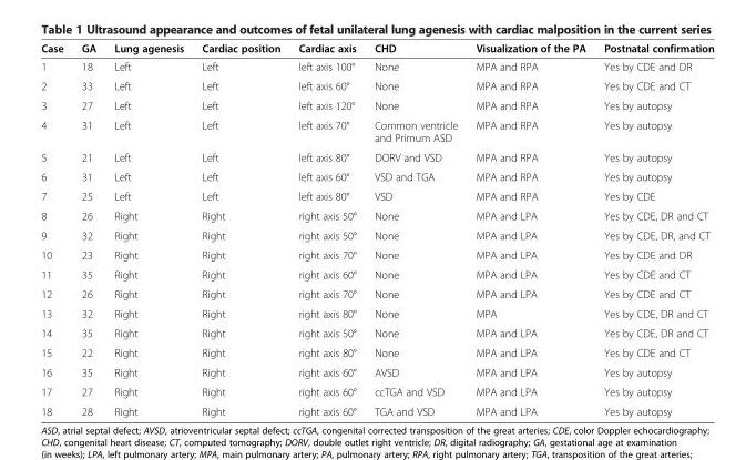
<table><thead><tr><td>Case</td><td>GA</td><td>Lung agenesis</td><td>Cardiac position</td><td>Cardiac axis</td><td>CHD</td><td>Visualization of the PA</td><td>Postnatal confirmation</td></tr></thead><tbody><tr><td>1</td><td>18</td><td>Left</td><td>Left</td><td>left axis 100°</td><td>None</td><td>MPA and RPA</td><td>Yes by CDE and DR</td></tr><tr><td>2</td><td>33</td><td>Left</td><td>Left</td><td>left axis 60°</td><td>None</td><td>MPA and RPA</td><td>Yes by CDE and CT</td></tr><tr><td>3</td><td>27</td><td>Left</td><td>Left</td><td>left axis 120°</td><td>None</td><td>MPA and RPA</td><td>Yes by autopsy</td></tr><tr><td>4</td><td>31</td><td>Left</td><td>Left</td><td>left axis 70°</td><td>Common ventricle and Primum ASD</td><td>MPA and RPA</td><td>Yes by autopsy</td></tr><tr><td>5</td><td>21</td><td>Left</td><td>Left</td><td>left axis 80°</td><td>DORV and VSD</td><td>MPA and RPA</td><td>Yes by autopsy</td></tr><tr><td>6</td><td>31</td><td>Left</td><td>Left</td><td>left axis 60°</td><td>VSD and TGA</td><td>MPA and RPA</td><td>Yes by autopsy</td></tr><tr><td>7</td><td>25</td><td>Left</td><td>Left</td><td>left axis 80°</td><td>VSD</td><td>MPA and RPA</td><td>Yes by CDE</td></tr><tr><td>8</td><td>26</td><td>Right</td><td>Right</td><td>right axis 50°</td><td>None</td><td>MPA and LPA</td><td>Yes by CDE, DR and CT</td></tr><tr><td>9</td><td>32</td><td>Right</td><td>Right</td><td>right axis 50°</td><td>None</td><td>MPA and LPA</td><td>Yes by CDE, DR, and CT</td></tr><tr><td>10</td><td>23</td><td>Right</td><td>Right</td><td>right axis 70°</td><td>None</td><td>MPA and LPA</td><td>Yes by CDE and DR</td></tr><tr><td>11</td><td>35</td><td>Right</td><td>Right</td><td>right axis 60°</td><td>None</td><td>MPA and LPA</td><td>Yes by CDE and CT</td></tr><tr><td>12</td><td>26</td><td>Right</td><td>Right</td><td>right axis 70°</td><td>None</td><td>MPA and LPA</td><td>Yes by CDE and CT</td></tr><tr><td>13</td><td>32</td><td>Right</td><td>Right</td><td>right axis 80°</td><td>None</td><td>MPA</td><td>Yes by CDE, DR and CT</td></tr><tr><td>14</td><td>35</td><td>Right</td><td>Right</td><td>right axis 50°</td><td>None</td><td>MPA and LPA</td><td>Yes by CDE, DR and CT</td></tr><tr><td>15</td><td>22</td><td>Right</td><td>Right</td><td>right axis 80°</td><td>None</td><td>MPA and LPA</td><td>Yes by CDE and CT</td></tr><tr><td>16</td><td>35</td><td>Right</td><td>Right</td><td>right axis 60°</td><td>AVSD</td><td>MPA and LPA</td><td>Yes by autopsy</td></tr><tr><td>17</td><td>27</td><td>Right</td><td>Right</td><td>right axis 60°</td><td>ccTGA and VSD</td><td>MPA and LPA</td><td>Yes by autopsy</td></tr><tr><td>18</td><td>28</td><td>Right</td><td>Right</td><td>right axis 60°</td><td>TGA and VSD</td><td>MPA and LPA</td><td>Yes by autopsy</td></tr></tbody></table>